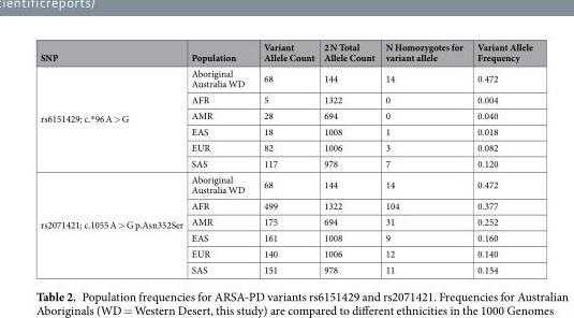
<table><thead><tr><td>SNP</td><td>Population</td><td>Variant Allele Count</td><td>2 N Total Allele Count</td><td>N Homozygotes for variant allele</td><td>Variant Allele Frequency</td></tr></thead><tbody><tr><td rowspan="6">rs6151429; c.*96 A &gt; G</td><td>Aboriginal Australia WD</td><td>68</td><td>144</td><td>14</td><td>0.472</td></tr><tr><td>AFR</td><td>5</td><td>1322</td><td>0</td><td>0.004</td></tr><tr><td>AMR</td><td>28</td><td>694</td><td>0</td><td>0.040</td></tr><tr><td>EAS</td><td>18</td><td>1008</td><td>1</td><td>0.018</td></tr><tr><td>EUR</td><td>82</td><td>1006</td><td>3</td><td>0.082</td></tr><tr><td>SAS</td><td>117</td><td>978</td><td>7</td><td>0.120</td></tr><tr><td rowspan="6">rs2071421; c.1055 A &gt; G p.Asn352Ser</td><td>Aboriginal Australia WD</td><td>68</td><td>144</td><td>14</td><td>0.472</td></tr><tr><td>AFR</td><td>499</td><td>1322</td><td>104</td><td>0.377</td></tr><tr><td>AMR</td><td>175</td><td>694</td><td>31</td><td>0.252</td></tr><tr><td>EAS</td><td>161</td><td>1008</td><td>9</td><td>0.160</td></tr><tr><td>EUR</td><td>140</td><td>1006</td><td>12</td><td>0.140</td></tr><tr><td>SAS</td><td>151</td><td>978</td><td>11</td><td>0.154</td></tr></tbody></table>